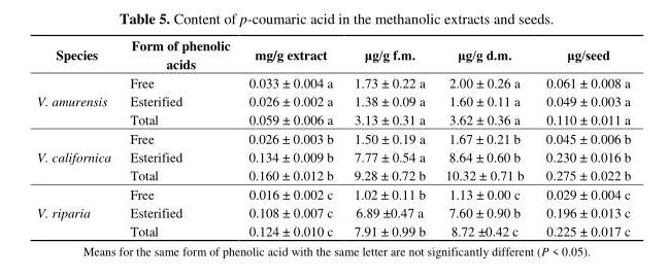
<table><thead><tr><td>Species</td><td>Form of phenolic acids</td><td>mg/g extract</td><td>μg/g f.m.</td><td>μg/g d.m.</td><td>μg/seed</td></tr></thead><tbody><tr><td rowspan="3">V. amurensis</td><td>Free</td><td>0.033 ± 0.004 a</td><td>1.73 ± 0.22 a</td><td>2.00 ± 0.26 a</td><td>0.061 ± 0.008 a</td></tr><tr><td>Esterified</td><td>0.026 ± 0.002 a</td><td>1.38 ± 0.09 a</td><td>1.60 ± 0.11 a</td><td>0.049 ± 0.003 a</td></tr><tr><td>Total</td><td>0.059 ± 0.006 a</td><td>3.13 ± 0.31 a</td><td>3.62 ± 0.36 a</td><td>0.110 ± 0.011 a</td></tr><tr><td rowspan="3">V. californica</td><td>Free</td><td>0.026 ± 0.003 b</td><td>1.50 ± 0.19 a</td><td>1.67 ± 0.21 b</td><td>0.045 ± 0.006 b</td></tr><tr><td>Esterified</td><td>0.134 ± 0.009 b</td><td>7.77 ± 0.54 a</td><td>8.64 ± 0.60 b</td><td>0.230 ± 0.016 b</td></tr><tr><td>Total</td><td>0.160 ± 0.012 b</td><td>9.28 ± 0.72 b</td><td>10.32 ± 0.71 b</td><td>0.275 ± 0.022 b</td></tr><tr><td rowspan="3">V. riparia</td><td>Free</td><td>0.016 ± 0.002 c</td><td>1.02 ± 0.11 b</td><td>1.13 ± 0.00 c</td><td>0.029 ± 0.004 c</td></tr><tr><td>Esterified</td><td>0.108 ± 0.007 c</td><td>6.89 ±0.47 a</td><td>7.60 ± 0.90 b</td><td>0.196 ± 0.013 c</td></tr><tr><td>Total</td><td>0.124 ± 0.010 c</td><td>7.91 ± 0.99 b</td><td>8.72 ±0.42 c</td><td>0.225 ± 0.017 c</td></tr></tbody></table>